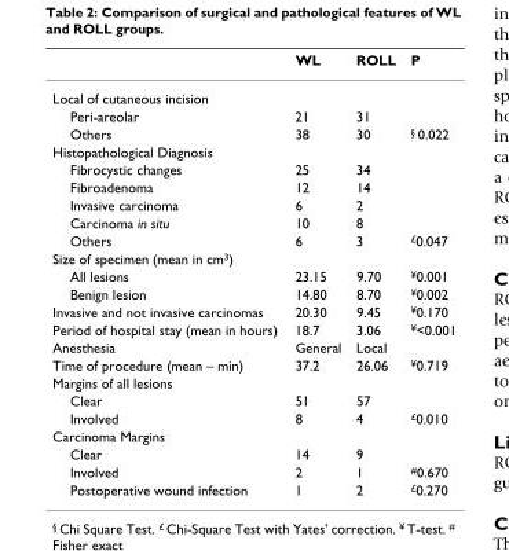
<table><thead><tr><td></td><td>WL</td><td>ROLL</td><td>P</td></tr></thead><tbody><tr><td colspan="4">Local of cutaneous incision</td></tr><tr><td>Peri-areolar</td><td>21</td><td>31</td><td></td></tr><tr><td>Others</td><td>38</td><td>30</td><td><sup>§</sup> 0.022</td></tr><tr><td colspan="4">Histopathological Diagnosis</td></tr><tr><td>Fibrocystic changes</td><td>25</td><td>34</td><td></td></tr><tr><td>Fibroadenoma</td><td>12</td><td>14</td><td></td></tr><tr><td>Invasive carcinoma</td><td>6</td><td>2</td><td></td></tr><tr><td>Carcinoma in situ</td><td>10</td><td>8</td><td></td></tr><tr><td>Others</td><td>6</td><td>3</td><td><sup>£</sup>0.047</td></tr><tr><td colspan="4">Size of specimen (mean in cm<sup>3</sup>)</td></tr><tr><td>All lesions</td><td>23.15</td><td>9.70</td><td><sup>¥</sup>0.001</td></tr><tr><td>Benign lesion</td><td>14.80</td><td>8.70</td><td><sup>¥</sup>0.002</td></tr><tr><td>Invasive and not invasive carcinomas</td><td>20.30</td><td>9.45</td><td><sup>¥</sup>0.170</td></tr><tr><td>Period of hospital stay (mean in hours)</td><td>18.7</td><td>3.06</td><td><sup>¥</sup>&lt;0.001</td></tr><tr><td>Anesthesia</td><td>General</td><td>Local</td><td></td></tr><tr><td>Time of procedure (mean – min)</td><td>37.2</td><td>26.06</td><td><sup>¥</sup>0.719</td></tr><tr><td colspan="4">Margins of all lesions</td></tr><tr><td>Clear</td><td>51</td><td>57</td><td></td></tr><tr><td>Involved</td><td>8</td><td>4</td><td><sup>£</sup>0.010</td></tr><tr><td colspan="4">Carcinoma Margins</td></tr><tr><td>Clear</td><td>14</td><td>9</td><td></td></tr><tr><td>Involved</td><td>2</td><td>1</td><td><sup>#</sup>0.670</td></tr><tr><td>Postoperative wound infection</td><td>1</td><td>2</td><td><sup>£</sup>0.270</td></tr></tbody></table>